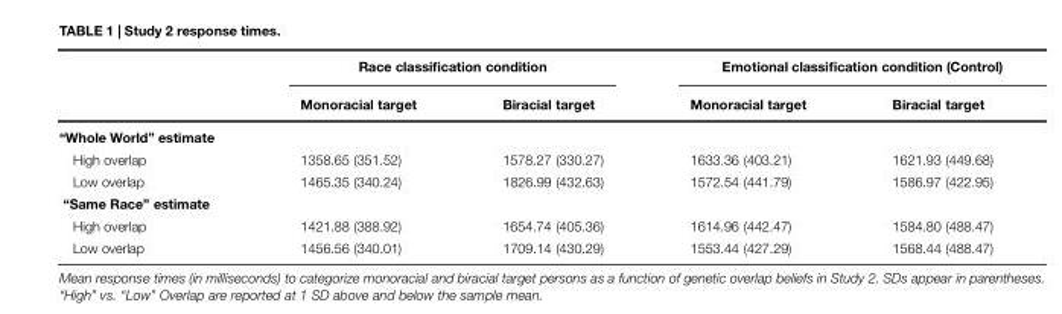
<table><thead><tr><td rowspan="2"></td><td colspan="2">Race classification condition</td><td colspan="2">Emotional classification condition (Control)</td></tr><tr><td>Monoracial target</td><td>Biracial target</td><td>Monoracial target</td><td>Biracial target</td></tr></thead><tbody><tr><td colspan="5">“Whole World” estimate</td></tr><tr><td>High overlap</td><td>1358.65 (351.52)</td><td>1578.27 (330.27)</td><td>1633.36 (403.21)</td><td>1621.93 (449.68)</td></tr><tr><td>Low overlap</td><td>1465.35 (340.24)</td><td>1826.99 (432.63)</td><td>1572.54 (441.79)</td><td>1586.97 (422.95)</td></tr><tr><td colspan="5">“Same Race” estimate</td></tr><tr><td>High overlap</td><td>1421.88 (388.92)</td><td>1654.74 (405.36)</td><td>1614.96 (442.47)</td><td>1584.80 (488.47)</td></tr><tr><td>Low overlap</td><td>1456.56 (340.01)</td><td>1709.14 (430.29)</td><td>1553.44 (427.29)</td><td>1568.44 (488.47)</td></tr></tbody></table>